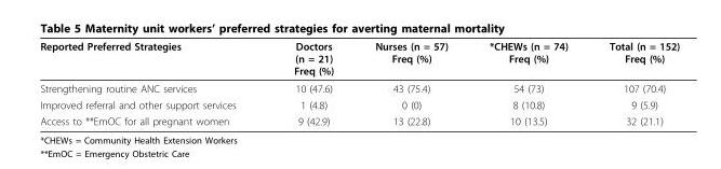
<table><thead><tr><td>Reported Preferred Strategies</td><td>Doctors (n = 21) Freq (%)</td><td>Nurses (n = 57) Freq (%)</td><td>*CHEWs (n = 74) Freq (%)</td><td>Total (n = 152) Freq (%)</td></tr></thead><tbody><tr><td>Strengthening routine ANC services</td><td>10 (47.6)</td><td>43 (75.4)</td><td>54 (73)</td><td>107 (70.4)</td></tr><tr><td>Improved referral and other support services</td><td>1 (4.8)</td><td>0 (0)</td><td>8 (10.8)</td><td>9 (5.9)</td></tr><tr><td>Access to **EmOC for all pregnant women</td><td>9 (42.9)</td><td>13 (22.8)</td><td>10 (13.5)</td><td>32 (21.1)</td></tr></tbody></table>